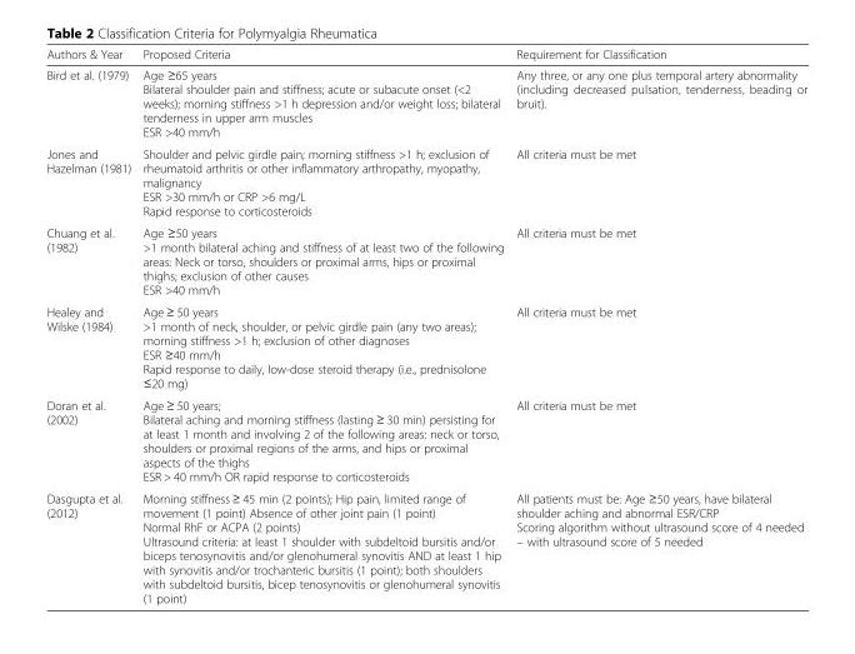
<table><thead><tr><td>Authors &amp; Year</td><td>Proposed Criteria</td><td>Requirement for Classification</td></tr></thead><tbody><tr><td>Bird et al. (1979)</td><td>Age ≥65 years Bilateral shoulder pain and stiffness; acute or subacute onset (&lt;2 weeks); morning stiffness &gt;1 h depression and/or weight loss; bilateral tenderness in upper arm muscles ESR &gt;40 mm/h</td><td>Any three, or any one plus temporal artery abnormality (including decreased pulsation, tenderness, beading or bruit).</td></tr><tr><td>Jones and Hazelman (1981)</td><td>Shoulder and pelvic girdle pain; morning stiffness &gt;1 h; exclusion of rheumatoid arthritis or other inflammatory arthropathy, myopathy, malignancy ESR &gt;30 mm/h or CRP &gt;6 mg/L Rapid response to corticosteroids</td><td>All criteria must be met</td></tr><tr><td>Chuang et al. (1982)</td><td>Age ≥50 years &gt;1 month bilateral aching and stiffness of at least two of the following areas: Neck or torso, shoulders or proximal arms, hips or proximal thighs; exclusion of other causes ESR &gt;40 mm/h</td><td>All criteria must be met</td></tr><tr><td>Healey and Wilske (1984)</td><td>Age ≥ 50 years &gt;1 month of neck, shoulder, or pelvic girdle pain (any two areas); morning stiffness &gt;1 h; exclusion of other diagnoses ESR ≥40 mm/h Rapid response to daily, low-dose steroid therapy (i.e., prednisolone ≤20 mg)</td><td>All criteria must be met</td></tr><tr><td>Doran et al. (2002)</td><td>Age ≥ 50 years; Bilateral aching and morning stiffness (lasting ≥ 30 min) persisting for at least 1 month and involving 2 of the following areas: neck or torso, shoulders or proximal regions of the arms, and hips or proximal aspects of the thighs ESR &gt; 40 mm/h OR rapid response to corticosteroids</td><td>All criteria must be met</td></tr><tr><td>Dasgupta et al. (2012)</td><td>Morning stiffness ≥ 45 min (2 points); Hip pain, limited range of movement (1 point) Absence of other joint pain (1 point) Normal RhF or ACPA (2 points) Ultrasound criteria: at least 1 shoulder with subdeltoid bursitis and/or biceps tenosynovitis and/or glenohumeral synovitis AND at least 1 hip with synovitis and/or trochanteric bursitis (1 point); both shoulders with subdeltoid bursitis, bicep tenosynovitis or glenohumeral synovitis (1 point)</td><td>All patients must be: Age ≥50 years, have bilateral shoulder aching and abnormal ESR/CRP Scoring algorithm without ultrasound score of 4 needed – with ultrasound score of 5 needed</td></tr></tbody></table>